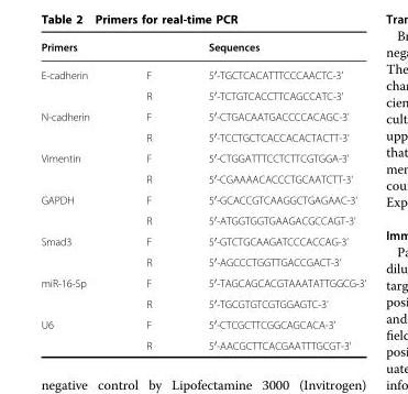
<table><thead><tr><td>Primers</td><td></td><td>Sequences</td></tr></thead><tbody><tr><td rowspan="2">E-cadherin</td><td>F</td><td>5′-TGCTCACATTTCCCAACTC-3&#x27;</td></tr><tr><td>R</td><td>5′-TCTGTCACCTTCAGCCATC-3&#x27;</td></tr><tr><td rowspan="2">N-cadherin</td><td>F</td><td>5′-CTGACAATGACCCCACAGC-3&#x27;</td></tr><tr><td>R</td><td>5′-TCCTGCTCACCACACTACTT-3&#x27;</td></tr><tr><td rowspan="2">Vimentin</td><td>F</td><td>5′-CTGGATTTCCTCTTCGTGGA-3&#x27;</td></tr><tr><td>R</td><td>5′-CGAAAACACCCTGCAATCTT-3&#x27;</td></tr><tr><td rowspan="2">GAPDH</td><td>F</td><td>5′-GCACCGTCAAGGCTGAGAAC-3&#x27;</td></tr><tr><td>R</td><td>5′-ATGGTGGTGAAGACGCCAGT-3&#x27;</td></tr><tr><td rowspan="2">Smad3</td><td>F</td><td>5′-GTCTGCAAGATCCCACCAG-3’</td></tr><tr><td>R</td><td>5′-AGCCCTGGTTGACCGACT-3’</td></tr><tr><td rowspan="2">miR-16-5p</td><td>F</td><td>5′-TAGCAGCACGTAAATATTGGCG-3&#x27;</td></tr><tr><td>R</td><td>5′-TGCGTGTCGTGGAGTC-3’</td></tr><tr><td rowspan="2">U6</td><td>F</td><td>5′-CTCGCTTCGGCAGCACA-3&#x27;</td></tr><tr><td>R</td><td>5′-AACGCTTCACGAATTTGCGT-3&#x27;</td></tr></tbody></table>